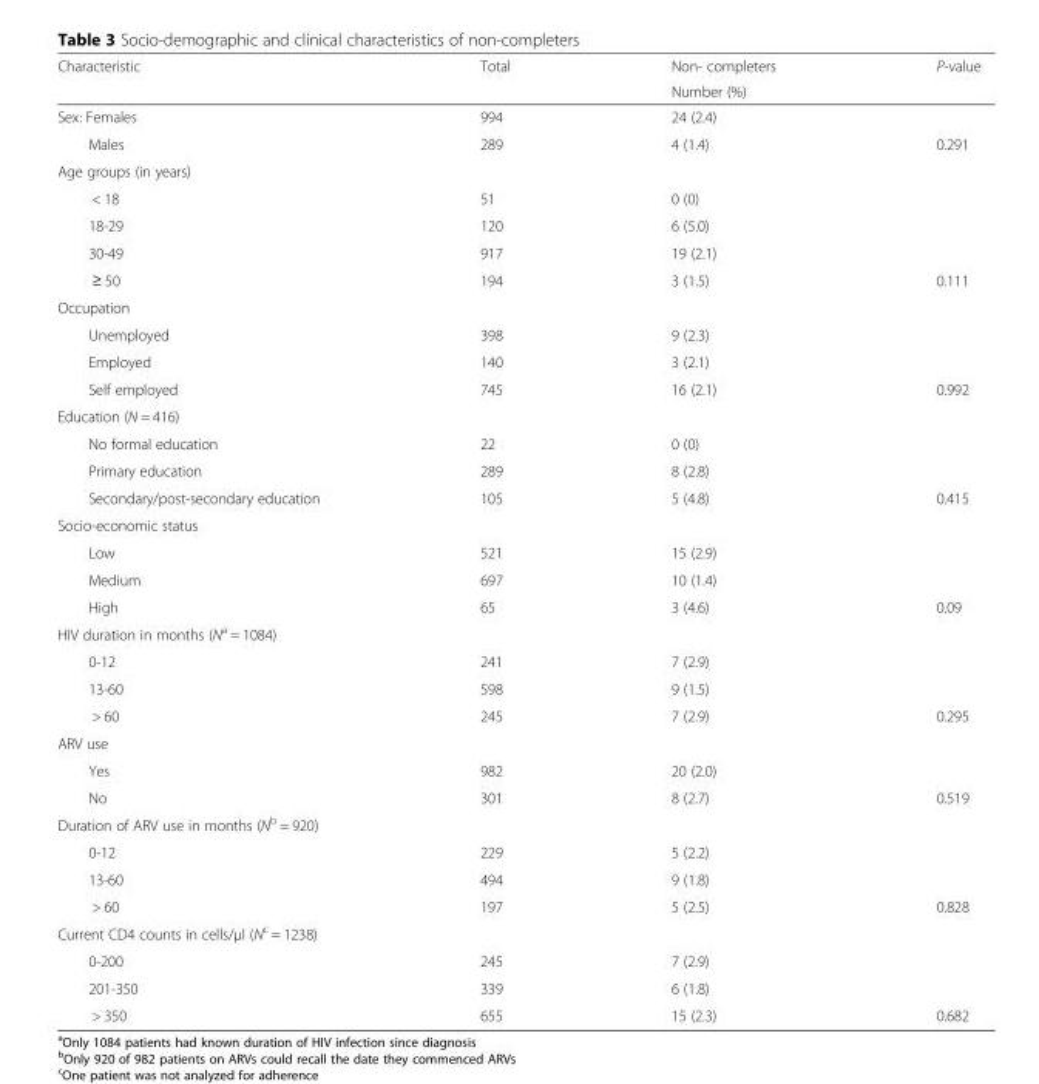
<table><thead><tr><td rowspan="2">Characteristic</td><td rowspan="2">Total</td><td rowspan="2">Non- completers Number (%)</td><td rowspan="2">P-value</td></tr><tr></tr></thead><tbody><tr><td>Sex: Females</td><td>994</td><td>24 (2.4)</td><td></td></tr><tr><td>Males</td><td>289</td><td>4 (1.4)</td><td>0.291</td></tr><tr><td colspan="4">Age groups (in years)</td></tr><tr><td>&lt; 18</td><td>51</td><td>0 (0)</td><td></td></tr><tr><td>18-29</td><td>120</td><td>6 (5.0)</td><td></td></tr><tr><td>30-49</td><td>917</td><td>19 (2.1)</td><td></td></tr><tr><td>≥ 50</td><td>194</td><td>3 (1.5)</td><td>0.111</td></tr><tr><td colspan="4">Occupation</td></tr><tr><td>Unemployed</td><td>398</td><td>9 (2.3)</td><td></td></tr><tr><td>Employed</td><td>140</td><td>3 (2.1)</td><td></td></tr><tr><td>Self employed</td><td>745</td><td>16 (2.1)</td><td>0.992</td></tr><tr><td colspan="4">Education (N = 416)</td></tr><tr><td>No formal education</td><td>22</td><td>0 (0)</td><td></td></tr><tr><td>Primary education</td><td>289</td><td>8 (2.8)</td><td></td></tr><tr><td>Secondary/post-secondary education</td><td>105</td><td>5 (4.8)</td><td>0.415</td></tr><tr><td colspan="4">Socio-economic status</td></tr><tr><td>Low</td><td>521</td><td>15 (2.9)</td><td></td></tr><tr><td>Medium</td><td>697</td><td>10 (1.4)</td><td></td></tr><tr><td>High</td><td>65</td><td>3 (4.6)</td><td>0.09</td></tr><tr><td colspan="4">HIV duration in months (N<sup>a</sup> = 1084)</td></tr><tr><td>0-12</td><td>241</td><td>7 (2.9)</td><td></td></tr><tr><td>13-60</td><td>598</td><td>9 (1.5)</td><td></td></tr><tr><td>&gt; 60</td><td>245</td><td>7 (2.9)</td><td>0.295</td></tr><tr><td colspan="4">ARV use</td></tr><tr><td>Yes</td><td>982</td><td>20 (2.0)</td><td></td></tr><tr><td>No</td><td>301</td><td>8 (2.7)</td><td>0.519</td></tr><tr><td colspan="4">Duration of ARV use in months (N<sup>b</sup> = 920)</td></tr><tr><td>0-12</td><td>229</td><td>5 (2.2)</td><td></td></tr><tr><td>13-60</td><td>494</td><td>9 (1.8)</td><td></td></tr><tr><td>&gt; 60</td><td>197</td><td>5 (2.5)</td><td>0.828</td></tr><tr><td colspan="4">Current CD4 counts in cells/μl (N<sup>c</sup> = 1238)</td></tr><tr><td>0-200</td><td>245</td><td>7 (2.9)</td><td></td></tr><tr><td>201-350</td><td>339</td><td>6 (1.8)</td><td></td></tr><tr><td>&gt; 350</td><td>655</td><td>15 (2.3)</td><td>0.682</td></tr></tbody></table>